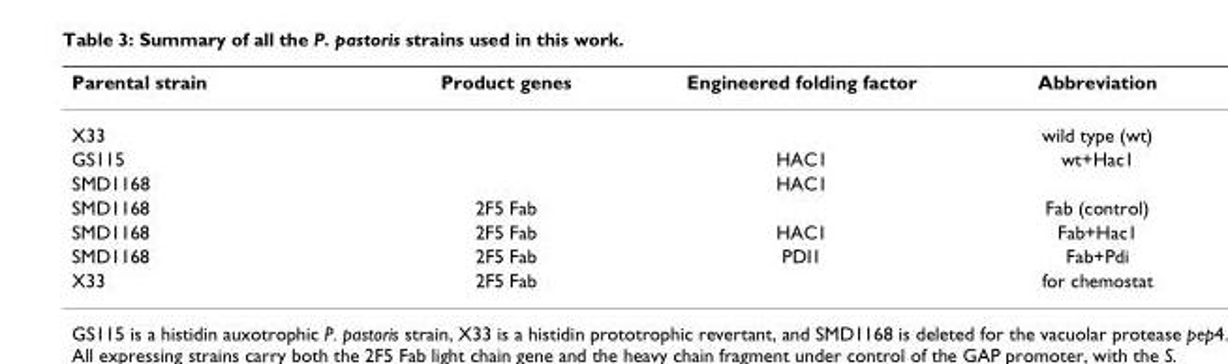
<table><thead><tr><td>Parental strain</td><td>Product genes</td><td>Engineered folding factor</td><td>Abbreviation</td></tr></thead><tbody><tr><td>X33</td><td></td><td></td><td>wild type (wt)</td></tr><tr><td>GS115</td><td></td><td>HAC1</td><td>wt+Hac1</td></tr><tr><td>SMD1168</td><td></td><td>HAC1</td><td></td></tr><tr><td>SMD1168</td><td>2F5 Fab</td><td></td><td>Fab (control)</td></tr><tr><td>SMD1168</td><td>2F5 Fab</td><td>HAC1</td><td>Fab+Hac1</td></tr><tr><td>SMD1168</td><td>2F5 Fab</td><td>PDI1</td><td>Fab+Pdi</td></tr><tr><td>X33</td><td>2F5 Fab</td><td></td><td>for chemostat</td></tr></tbody></table>